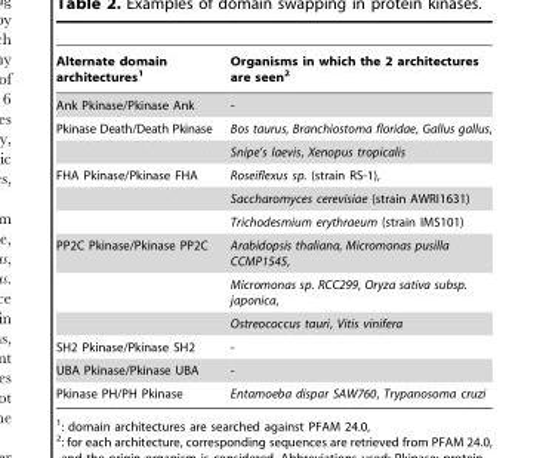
<table><thead><tr><td>Alternate domain architectures<sup>1</sup></td><td>Organisms in which the 2 architectures are seen<sup>2</sup></td></tr></thead><tbody><tr><td>Ank Pkinase/Pkinase Ank</td><td>-</td></tr><tr><td rowspan="2">Pkinase Death/Death Pkinase</td><td>Bos taurus, Branchiostoma floridae, Gallus gallus,</td></tr><tr><td>Snipe’s laevis, Xenopus tropicalis</td></tr><tr><td rowspan="3">FHA Pkinase/Pkinase FHA</td><td>Roseiflexus sp. (strain RS-1),</td></tr><tr><td>Saccharomyces cerevisiae (strain AWRI1631)</td></tr><tr><td>Trichodesmium erythraeum (strain IMS101)</td></tr><tr><td rowspan="3">PP2C Pkinase/Pkinase PP2C</td><td>Arabidopsis thaliana, Micromonas pusilla CCMP1545,</td></tr><tr><td>Micromonas sp. RCC299, Oryza sativa subsp. japonica,</td></tr><tr><td>Ostreococcus tauri, Vitis vinifera</td></tr><tr><td>SH2 Pkinase/Pkinase SH2</td><td>-</td></tr><tr><td>UBA Pkinase/Pkinase UBA</td><td>-</td></tr><tr><td>Pkinase PH/PH Pkinase</td><td>Entamoeba dispar SAW760, Trypanosoma cruzi</td></tr></tbody></table>